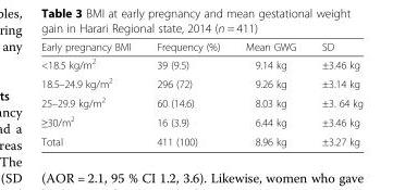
<table><thead><tr><td>Early pregnancy BMI</td><td>Frequency (%)</td><td>Mean GWG</td><td>SD</td></tr></thead><tbody><tr><td>&lt;18.5 kg/m<sup>2</sup></td><td>39 (9.5)</td><td>9.14 kg</td><td>±3.46 kg</td></tr><tr><td>18.5–24.9 kg/m<sup>2</sup></td><td>296 (72)</td><td>9.26 kg</td><td>±3.14 kg</td></tr><tr><td>25–29.9 kg/m<sup>2</sup></td><td>60 (14.6)</td><td>8.03 kg</td><td>±3. 64 kg</td></tr><tr><td>≥30/m<sup>2</sup></td><td>16 (3.9)</td><td>6.44 kg</td><td>±3.46 kg</td></tr><tr><td>Total</td><td>411 (100)</td><td>8.96 kg</td><td>±3.27 kg</td></tr></tbody></table>